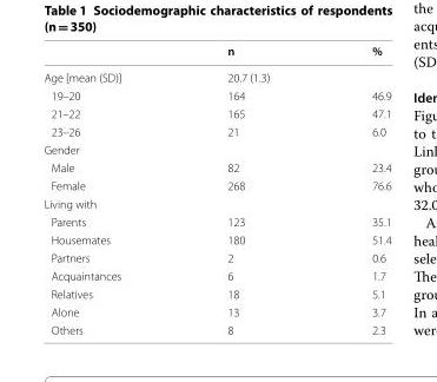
<table><thead><tr><td></td><td>n</td><td>%</td></tr></thead><tbody><tr><td>Age [mean (SD)]</td><td colspan="2">20.7 (1.3)</td></tr><tr><td>19–20</td><td>164</td><td>46.9</td></tr><tr><td>21–22</td><td>165</td><td>47.1</td></tr><tr><td>23–26</td><td>21</td><td>6.0</td></tr><tr><td colspan="3">Gender</td></tr><tr><td>Male</td><td>82</td><td>23.4</td></tr><tr><td>Female</td><td>268</td><td>76.6</td></tr><tr><td colspan="3">Living with</td></tr><tr><td>Parents</td><td>123</td><td>35.1</td></tr><tr><td>Housemates</td><td>180</td><td>51.4</td></tr><tr><td>Partners</td><td>2</td><td>0.6</td></tr><tr><td>Acquaintances</td><td>6</td><td>1.7</td></tr><tr><td>Relatives</td><td>18</td><td>5.1</td></tr><tr><td>Alone</td><td>13</td><td>3.7</td></tr><tr><td>Others</td><td>8</td><td>2.3</td></tr></tbody></table>